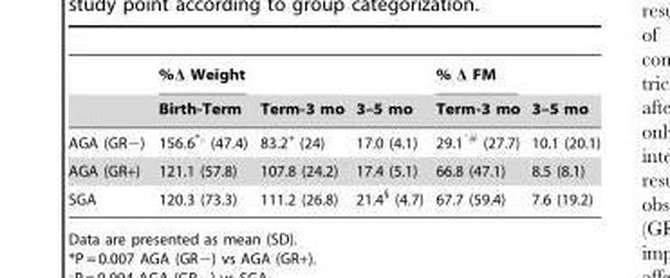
<table><thead><tr><td rowspan="2"></td><td rowspan="2">%Δ Weight Birth-Term</td><td rowspan="2">Term-3 mo</td><td rowspan="2">3–5 mo</td><td rowspan="2">% Δ FM Term-3 mo</td><td rowspan="2">3–5 mo</td></tr><tr></tr></thead><tbody><tr><td>AGA (GR−)</td><td>156.6*‘ (47.4)</td><td>83.2+ (24)</td><td>17.0 (4.1)</td><td>29.1°# (27.7)</td><td>10.1 (20.1)</td></tr><tr><td>AGA (GR+)</td><td>121.1 (57.8)</td><td>107.8 (24.2)</td><td>17.4 (5.1)</td><td>66.8 (47.1)</td><td>8.5 (8.1)</td></tr><tr><td>SGA</td><td>120.3 (73.3)</td><td>111.2 (26.8)</td><td>21.4§ (4.7)</td><td>67.7 (59.4)</td><td>7.6 (19.2)</td></tr></tbody></table>